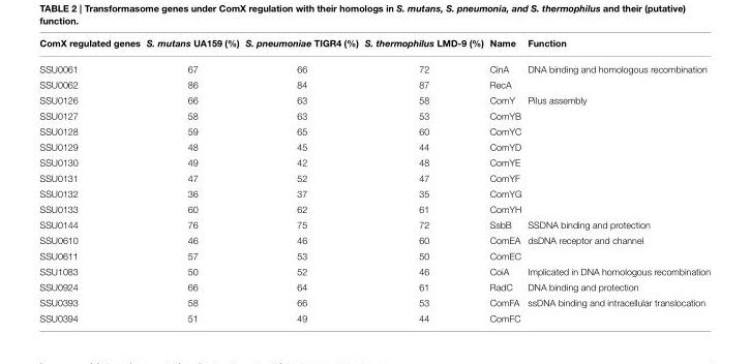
<table><thead><tr><td>ComX regulated genes</td><td>S. mutans UA159 (%)</td><td>S. pneumoniae TIGR4 (%)</td><td>S. thermophilus LMD-9 (%)</td><td>Name</td><td>Function</td></tr></thead><tbody><tr><td>SSU0061</td><td>67</td><td>66</td><td>72</td><td>CinA</td><td>DNA binding and homologous recombination</td></tr><tr><td>SSU0062</td><td>86</td><td>84</td><td>87</td><td>RecA</td><td></td></tr><tr><td>SSU0126</td><td>66</td><td>63</td><td>58</td><td>ComY</td><td>Pilus assembly</td></tr><tr><td>SSU0127</td><td>58</td><td>63</td><td>53</td><td>ComYB</td><td></td></tr><tr><td>SSU0128</td><td>59</td><td>65</td><td>60</td><td>ComYC</td><td></td></tr><tr><td>SSU0129</td><td>48</td><td>45</td><td>44</td><td>ComYD</td><td></td></tr><tr><td>SSU0130</td><td>49</td><td>42</td><td>48</td><td>ComYE</td><td></td></tr><tr><td>SSU0131</td><td>47</td><td>52</td><td>47</td><td>ComYF</td><td></td></tr><tr><td>SSU0132</td><td>36</td><td>37</td><td>35</td><td>ComYG</td><td></td></tr><tr><td>SSU0133</td><td>60</td><td>62</td><td>61</td><td>ComYH</td><td></td></tr><tr><td>SSU0144</td><td>76</td><td>75</td><td>72</td><td>SsbB</td><td>SSDNA binding and protection</td></tr><tr><td>SSU0610</td><td>46</td><td>46</td><td>60</td><td>ComEA</td><td>dsDNA receptor and channel</td></tr><tr><td>SSU0611</td><td>57</td><td>53</td><td>50</td><td>ComEC</td><td></td></tr><tr><td>SSU1083</td><td>50</td><td>52</td><td>46</td><td>CoiA</td><td>Implicated in DNA homologous recombination</td></tr><tr><td>SSU0924</td><td>66</td><td>64</td><td>61</td><td>RadC</td><td>DNA binding and protection</td></tr><tr><td>SSU0393</td><td>58</td><td>66</td><td>53</td><td>ComFA</td><td>ssDNA binding and intracellular translocation</td></tr><tr><td>SSU0394</td><td>51</td><td>49</td><td>44</td><td>ComFC</td><td></td></tr></tbody></table>